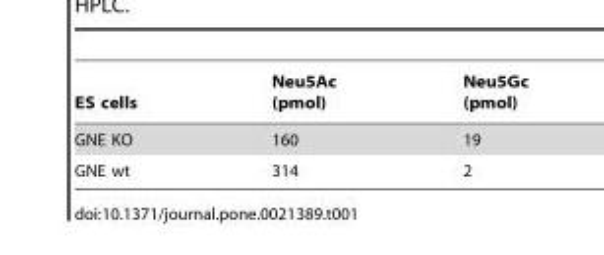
<table><thead><tr><td>ES cells</td><td>Neu5Ac (pmol)</td><td>Neu5Gc (pmol)</td></tr></thead><tbody><tr><td>GNE KO</td><td>160</td><td>19</td></tr><tr><td>GNE wt</td><td>314</td><td>2</td></tr></tbody></table>